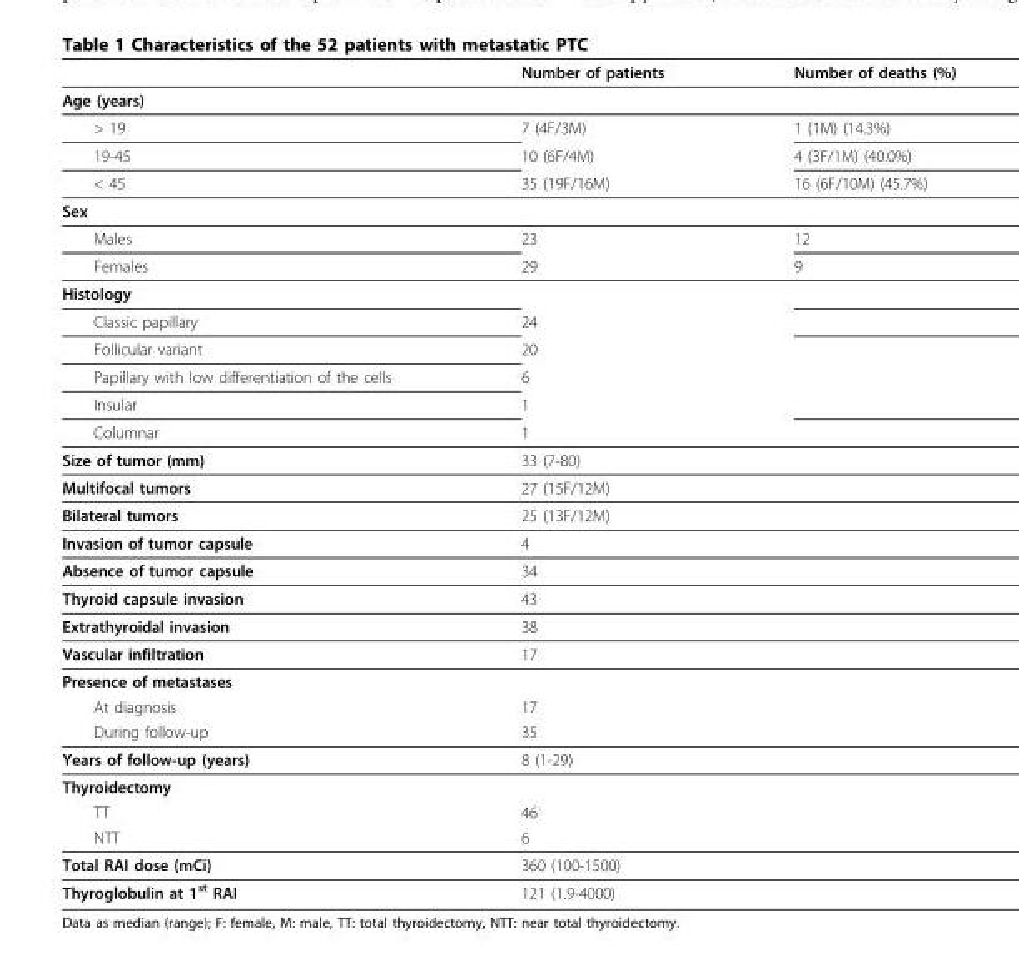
<table><thead><tr><td></td><td>Number of patients</td><td>Number of deaths (%)</td></tr></thead><tbody><tr><td colspan="3">Age (years)</td></tr><tr><td>&gt; 19</td><td>7 (4F/3M)</td><td>1 (1M) (14.3%)</td></tr><tr><td>19-45</td><td>10 (6F/4M)</td><td>4 (3F/1M) (40.0%)</td></tr><tr><td>&lt; 45</td><td>35 (19F/16M)</td><td>16 (6F/10M) (45.7%)</td></tr><tr><td colspan="3">Sex</td></tr><tr><td>Males</td><td>23</td><td>12</td></tr><tr><td>Females</td><td>29</td><td>9</td></tr><tr><td colspan="3">Histology</td></tr><tr><td>Classic papillary</td><td>24</td><td></td></tr><tr><td>Follicular variant</td><td>20</td><td></td></tr><tr><td>Papillary with low differentiation of the cells</td><td>6</td><td></td></tr><tr><td>Insular</td><td>1</td><td></td></tr><tr><td>Columnar</td><td>1</td><td></td></tr><tr><td>Size of tumor (mm)</td><td>33 (7-80)</td><td></td></tr><tr><td>Multifocal tumors</td><td>27 (15F/12M)</td><td></td></tr><tr><td>Bilateral tumors</td><td>25 (13F/12M)</td><td></td></tr><tr><td>Invasion of tumor capsule</td><td>4</td><td></td></tr><tr><td>Absence of tumor capsule</td><td>34</td><td></td></tr><tr><td>Thyroid capsule invasion</td><td>43</td><td></td></tr><tr><td>Extrathyroidal invasion</td><td>38</td><td></td></tr><tr><td>Vascular infiltration</td><td>17</td><td></td></tr><tr><td colspan="3">Presence of metastases</td></tr><tr><td>At diagnosis</td><td>17</td><td></td></tr><tr><td>During follow-up</td><td>35</td><td></td></tr><tr><td>Years of follow-up (years)</td><td>8 (1-29)</td><td></td></tr><tr><td colspan="3">Thyroidectomy</td></tr><tr><td>TT</td><td>46</td><td></td></tr><tr><td>NTT</td><td>6</td><td></td></tr><tr><td>Total RAI dose (mCi)</td><td>360 (100-1500)</td><td></td></tr><tr><td>Thyroglobulin at 1<sup>st</sup> RAI</td><td>121 (1.9-4000)</td><td></td></tr></tbody></table>